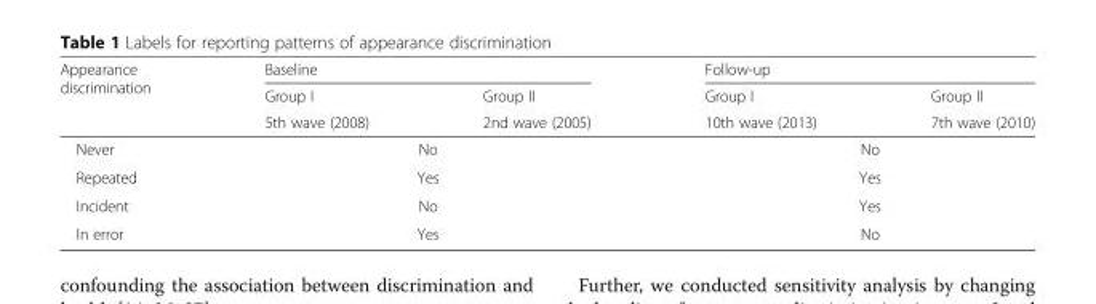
<table><thead><tr><td rowspan="3">Appearance discrimination</td><td colspan="2">Baseline</td><td colspan="2">Follow-up</td></tr><tr><td rowspan="2">Group I 5th wave (2008)</td><td rowspan="2">Group II 2nd wave (2005)</td><td rowspan="2">Group I 10th wave (2013)</td><td rowspan="2">Group II 7th wave (2010)</td></tr><tr></tr></thead><tbody><tr><td>Never</td><td colspan="2">No</td><td colspan="2">No</td></tr><tr><td>Repeated</td><td colspan="2">Yes</td><td colspan="2">Yes</td></tr><tr><td>Incident</td><td colspan="2">No</td><td colspan="2">Yes</td></tr><tr><td>In error</td><td colspan="2">Yes</td><td colspan="2">No</td></tr></tbody></table>